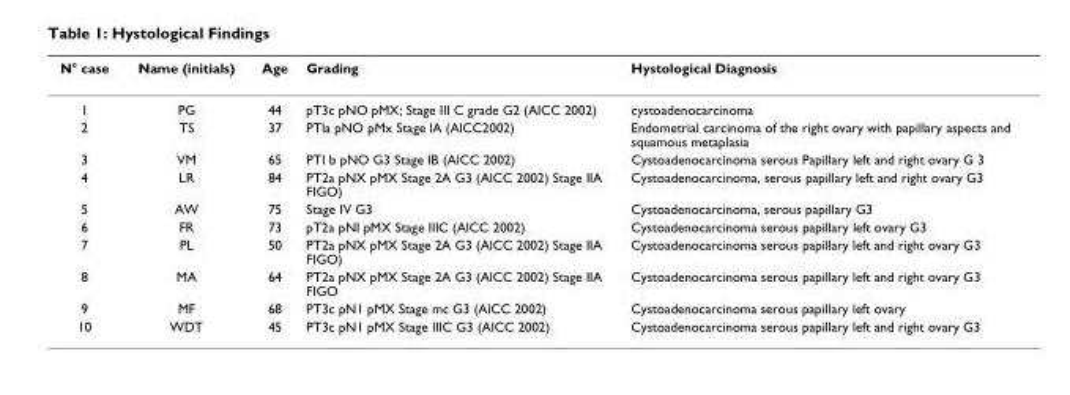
<table><thead><tr><td>N° case</td><td>Name (initials)</td><td>Age</td><td>Grading</td><td>Hystological Diagnosis</td></tr></thead><tbody><tr><td>1</td><td>PG</td><td>44</td><td>pT3c pNO pMX; Stage III C grade G2 (AICC 2002)</td><td>cystoadenocarcinoma</td></tr><tr><td>2</td><td>TS</td><td>37</td><td>PTla pNO pMx Stage lA (AlCC2002)</td><td>Endometrial carcinoma of the right ovary with papillary aspects and squamous metaplasia</td></tr><tr><td>3</td><td>VM</td><td>65</td><td>PTI b pNO G3 Stage IB (AlCC 2002)</td><td>Cystoadenocarcinoma serous Papillary left and right ovary G 3</td></tr><tr><td>4</td><td>LR</td><td>84</td><td>PT2a pNX pMX Stage 2A G3 (AlCC 2002) Stage IIA FIGO)</td><td>Cystoadenocarcinoma, serous papillary left and right ovary G3</td></tr><tr><td>5</td><td>AW</td><td>75</td><td>Stage IV G3</td><td>Cystoadenocarcinoma, serous papillary G3</td></tr><tr><td>6</td><td>FR</td><td>73</td><td>pT2a pNI pMX Stage IIIC (AlCC 2002)</td><td>Cystoadenocarcinoma serous papillary left ovary G3</td></tr><tr><td>7</td><td>PL</td><td>50</td><td>PT2a pNX pMX Stage 2A G3 (AlCC 2002) Stage IIA FIGO)</td><td>Cystoadenocarcinoma serous papillary left and right ovary G3</td></tr><tr><td>8</td><td>MA</td><td>64</td><td>PT2a pNX pMX Stage 2A G3 (AlCC 2002) Stage IIA FIGO</td><td>Cystoadenocarcinoma serous papillary left and right ovary G3</td></tr><tr><td>9</td><td>MF</td><td>68</td><td>PT3c pN1 pMX Stage mc G3 (AlCC 2002)</td><td>Cystoadenocarcinoma serous papillary left ovary</td></tr><tr><td>10</td><td>WDT</td><td>45</td><td>PT3c pN1 pMX Stage IIIC G3 (AlCC 2002)</td><td>Cystoadenocarcinoma serous papillary left and right ovary G3</td></tr></tbody></table>